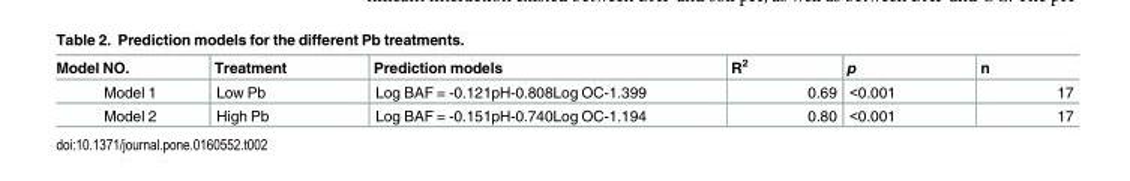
<table><thead><tr><td>Model NO.</td><td>Treatment</td><td>Prediction models</td><td>R<sup>2</sup></td><td>p</td><td>n</td></tr></thead><tbody><tr><td>Model 1</td><td>Low Pb</td><td>Log BAF = -0.121pH-0.808Log OC-1.399</td><td>0.69</td><td>&lt;0.001</td><td>17</td></tr><tr><td>Model 2</td><td>High Pb</td><td>Log BAF = -0.151pH-0.740Log OC-1.194</td><td>0.80</td><td>&lt;0.001</td><td>17</td></tr></tbody></table>